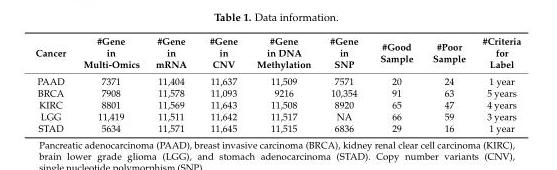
<table><thead><tr><td>Cancer</td><td>#Gene in Multi-Omics</td><td>#Gene in mRNA</td><td>#Gene in CNV</td><td>#Gene in DNA Methylation</td><td>#Gene in SNP</td><td>#Good Sample</td><td>#Poor Sample</td><td>#Criteria for Label</td></tr></thead><tbody><tr><td>PAAD</td><td>7371</td><td>11,404</td><td>11,637</td><td>11,509</td><td>7571</td><td>20</td><td>24</td><td>1 year</td></tr><tr><td>BRCA</td><td>7908</td><td>11,578</td><td>11,093</td><td>9216</td><td>10,354</td><td>91</td><td>63</td><td>5 years</td></tr><tr><td>KIRC</td><td>8801</td><td>11,569</td><td>11,643</td><td>11,508</td><td>8920</td><td>65</td><td>47</td><td>4 years</td></tr><tr><td>LGG</td><td>11,419</td><td>11,511</td><td>11,642</td><td>11,517</td><td>NA</td><td>66</td><td>59</td><td>3 years</td></tr><tr><td>STAD</td><td>5634</td><td>11,571</td><td>11,645</td><td>11,515</td><td>6836</td><td>29</td><td>16</td><td>1 year</td></tr></tbody></table>